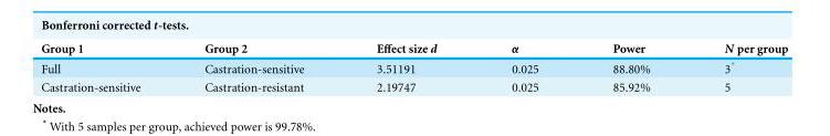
<table><thead><tr><td>Group 1</td><td>Group 2</td><td>Effect size d</td><td>α</td><td>Power</td><td>N per group</td></tr></thead><tbody><tr><td>Full</td><td>Castration-sensitive</td><td>3.51191</td><td>0.025</td><td>88.80%</td><td>3*</td></tr><tr><td>Castration-sensitive</td><td>Castration-resistant</td><td>2.19747</td><td>0.025</td><td>85.92%</td><td>5</td></tr></tbody></table>